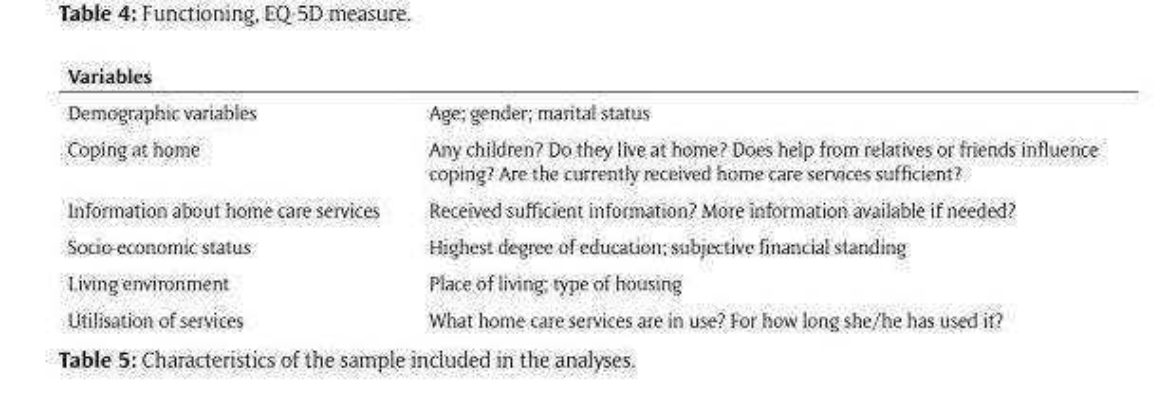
<table><thead><tr><td>Variables</td><td></td></tr></thead><tbody><tr><td>Demographic variables</td><td>Age; gender; marital status</td></tr><tr><td>Coping at home</td><td>Any children? Do they live at home? Does help from relatives or friends influence coping? Are the currently received home care services sufficient?</td></tr><tr><td>Information about home care services</td><td>Received sufficient information? More information available if needed?</td></tr><tr><td>Socio-economic status</td><td>Highest degree of education; subjective financial standing</td></tr><tr><td>Living environment</td><td>Place of living; type of housing</td></tr><tr><td>Utilisation of services</td><td>What home care services are in use? For how long she/he has used it?</td></tr></tbody></table>